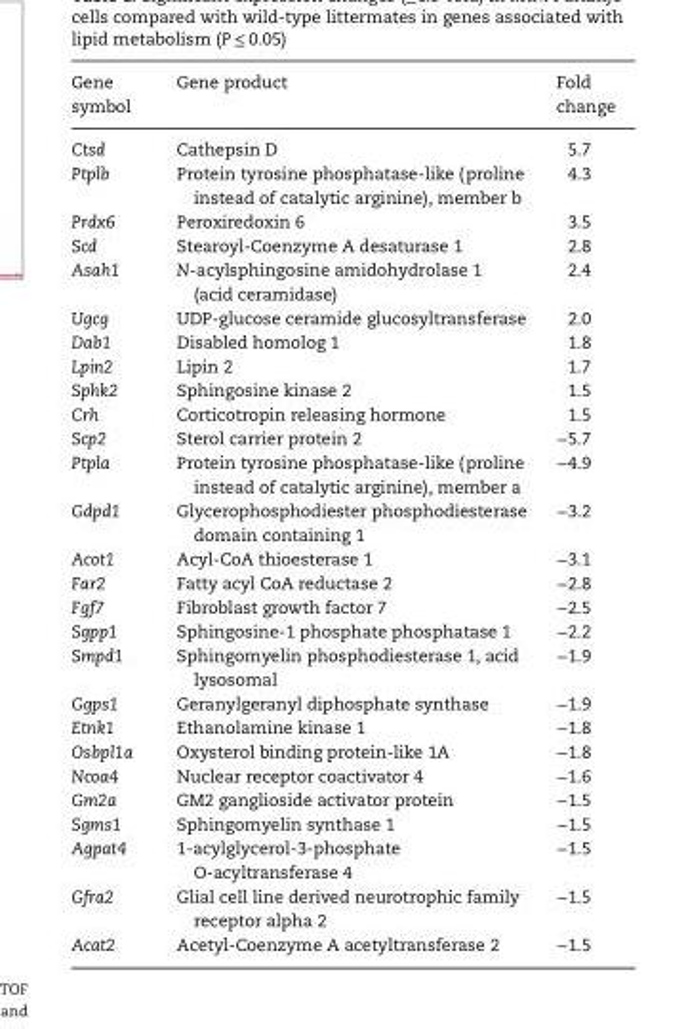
<table><thead><tr><td>Gene symbol</td><td>Gene product</td><td>Fold change</td></tr></thead><tbody><tr><td>Ctsd</td><td>Cathepsin D</td><td>5.7</td></tr><tr><td>Ptplb</td><td>Protein tyrosine phosphatase-like (proline instead of catalytic arginine), member b</td><td>4.3</td></tr><tr><td>Prdx6</td><td>Peroxiredoxin 6</td><td>3.5</td></tr><tr><td>Scd</td><td>Stearoyl-Coenzyme A desaturase 1</td><td>2.8</td></tr><tr><td>Asah1</td><td>N-acylsphingosine amidohydrolase 1 (acid ceramidase)</td><td>2.4</td></tr><tr><td>Ugcg</td><td>UDP-glucose ceramide glucosyltransferase</td><td>2.0</td></tr><tr><td>Dab1</td><td>Disabled homolog 1</td><td>1.8</td></tr><tr><td>Lpin2</td><td>Lipin 2</td><td>1.7</td></tr><tr><td>Sphk2</td><td>Sphingosine kinase 2</td><td>1.5</td></tr><tr><td>Crh</td><td>Corticotropin releasing hormone</td><td>1.5</td></tr><tr><td>Scp2</td><td>Sterol carrier protein 2</td><td>−5.7</td></tr><tr><td>Ptpla</td><td>Protein tyrosine phosphatase-like (proline instead of catalytic arginine), member a</td><td>−4.9</td></tr><tr><td>Gdpd1</td><td>Glycerophosphodiester phosphodiesterase domain containing 1</td><td>−3.2</td></tr><tr><td>Acot1</td><td>Acyl-CoA thioesterase 1</td><td>−3.1</td></tr><tr><td>Far2</td><td>Fatty acyl CoA reductase 2</td><td>−2.8</td></tr><tr><td>Fgf7</td><td>Fibroblast growth factor 7</td><td>−2.5</td></tr><tr><td>Sgpp1</td><td>Sphingosine-1 phosphate phosphatase 1</td><td>−2.2</td></tr><tr><td>Smpd1</td><td>Sphingomyelin phosphodiesterase 1, acid lysosomal</td><td>−1.9</td></tr><tr><td>Ggps1</td><td>Geranylgeranyl diphosphate synthase</td><td>−1.9</td></tr><tr><td>Etnk1</td><td>Ethanolamine kinase 1</td><td>−1.8</td></tr><tr><td>Osbpl1a</td><td>Oxysterol binding protein-like 1A</td><td>−1.8</td></tr><tr><td>Ncoa4</td><td>Nuclear receptor coactivator 4</td><td>−1.6</td></tr><tr><td>Gm2a</td><td>GM2 ganglioside activator protein</td><td>−1.5</td></tr><tr><td>Sgms1</td><td>Sphingomyelin synthase 1</td><td>−1.5</td></tr><tr><td>Agpat4</td><td>1-acylglycerol-3-phosphate O-acyltransferase 4</td><td>−1.5</td></tr><tr><td>Gfra2</td><td>Glial cell line derived neurotrophic family receptor alpha 2</td><td>−1.5</td></tr><tr><td>Acat2</td><td>Acetyl-Coenzyme A acetyltransferase 2</td><td>−1.5</td></tr></tbody></table>